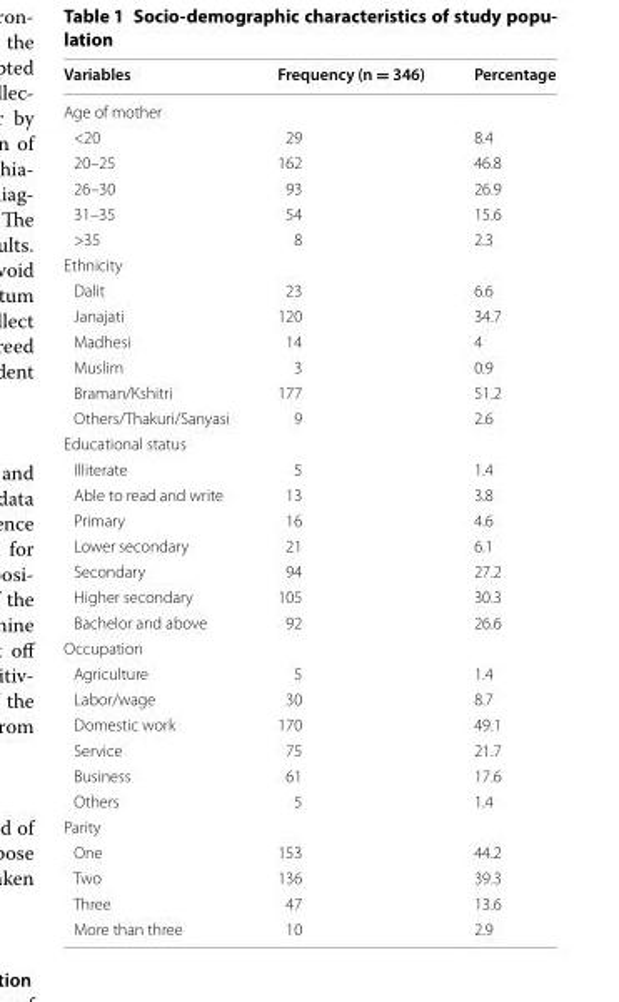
<table><thead><tr><td>Variables</td><td>Frequency (n = 346)</td><td>Percentage</td></tr></thead><tbody><tr><td colspan="3">Age of mother</td></tr><tr><td>&lt;20</td><td>29</td><td>8.4</td></tr><tr><td>20–25</td><td>162</td><td>46.8</td></tr><tr><td>26–30</td><td>93</td><td>26.9</td></tr><tr><td>31–35</td><td>54</td><td>15.6</td></tr><tr><td>&gt;35</td><td>8</td><td>2.3</td></tr><tr><td colspan="3">Ethnicity</td></tr><tr><td>Dalit</td><td>23</td><td>6.6</td></tr><tr><td>Janajati</td><td>120</td><td>34.7</td></tr><tr><td>Madhesi</td><td>14</td><td>4</td></tr><tr><td>Muslim</td><td>3</td><td>0.9</td></tr><tr><td>Braman/Kshitri</td><td>177</td><td>51.2</td></tr><tr><td>Others/Thakuri/Sanyasi</td><td>9</td><td>2.6</td></tr><tr><td colspan="3">Educational status</td></tr><tr><td>Illiterate</td><td>5</td><td>1.4</td></tr><tr><td>Able to read and write</td><td>13</td><td>3.8</td></tr><tr><td>Primary</td><td>16</td><td>4.6</td></tr><tr><td>Lower secondary</td><td>21</td><td>6.1</td></tr><tr><td>Secondary</td><td>94</td><td>27.2</td></tr><tr><td>Higher secondary</td><td>105</td><td>30.3</td></tr><tr><td>Bachelor and above</td><td>92</td><td>26.6</td></tr><tr><td colspan="3">Occupation</td></tr><tr><td>Agriculture</td><td>5</td><td>1.4</td></tr><tr><td>Labor/wage</td><td>30</td><td>8.7</td></tr><tr><td>Domestic work</td><td>170</td><td>49.1</td></tr><tr><td>Service</td><td>75</td><td>21.7</td></tr><tr><td>Business</td><td>61</td><td>17.6</td></tr><tr><td>Others</td><td>5</td><td>1.4</td></tr><tr><td colspan="3">Parity</td></tr><tr><td>One</td><td>153</td><td>44.2</td></tr><tr><td>Two</td><td>136</td><td>39.3</td></tr><tr><td>Three</td><td>47</td><td>13.6</td></tr><tr><td>More than three</td><td>10</td><td>2.9</td></tr></tbody></table>